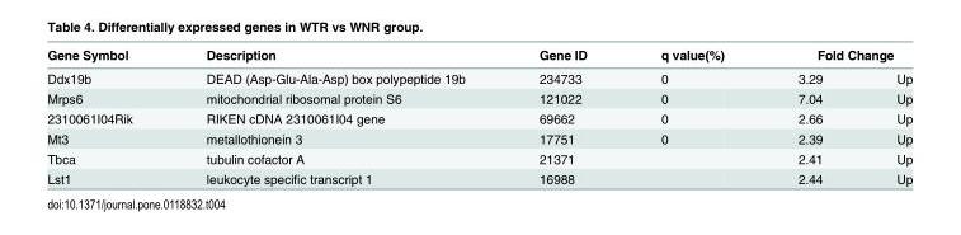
<table><thead><tr><td rowspan="2">Gene Symbol Ddx19b</td><td rowspan="2">Description DEAD (Asp-Glu-Ala-Asp) box polypeptide 19b</td><td rowspan="2">Gene ID 234733</td><td rowspan="2">q value(%) 0</td><td colspan="2">Fold Change</td></tr><tr><td>3.29</td><td>Up</td></tr></thead><tbody><tr><td>Mrps6</td><td>mitochondrial ribosomal protein S6</td><td>121022</td><td>0</td><td>7.04</td><td>Up</td></tr><tr><td>2310061I04Rik</td><td>RIKEN cDNA 2310061I04 gene</td><td>69662</td><td>0</td><td>2.66</td><td>Up</td></tr><tr><td>Mt3</td><td>metallothionein 3</td><td>17751</td><td>0</td><td>2.39</td><td>Up</td></tr><tr><td>Tbca</td><td>tubulin cofactor A</td><td>21371</td><td></td><td>2.41</td><td>Up</td></tr><tr><td>Lst1</td><td>leukocyte specific transcript 1</td><td>16988</td><td></td><td>2.44</td><td>Up</td></tr></tbody></table>